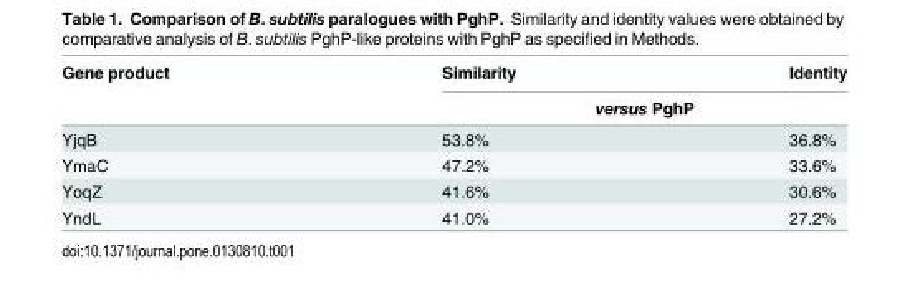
<table><thead><tr><td rowspan="2">Gene product</td><td>Similarity</td><td>Identity</td></tr><tr><td colspan="2">versus PghP</td></tr></thead><tbody><tr><td>YjqB</td><td>53.8%</td><td>36.8%</td></tr><tr><td>YmaC</td><td>47.2%</td><td>33.6%</td></tr><tr><td>YoqZ</td><td>41.6%</td><td>30.6%</td></tr><tr><td>YndL</td><td>41.0%</td><td>27.2%</td></tr></tbody></table>